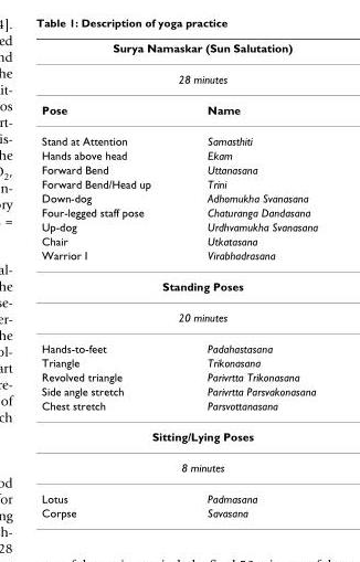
<table><thead><tr><td rowspan="2" colspan="2">Surya Namaskar (Sun Salutation) 28 minutes</td></tr><tr></tr><tr><td>Pose</td><td>Name</td></tr></thead><tbody><tr><td>Stand at Attention</td><td>Samasthiti</td></tr><tr><td>Hands above head</td><td>Ekam</td></tr><tr><td>Forward Bend</td><td>Uttanasana</td></tr><tr><td>Forward Bend/Head up</td><td>Trini</td></tr><tr><td>Down-dog</td><td>Adhomukha Svanasana</td></tr><tr><td>Four-legged staff pose</td><td>Chaturanga Dandasana</td></tr><tr><td>Up-dog</td><td>Urdhvamukha Svanasana</td></tr><tr><td>Chair</td><td>Utkatasana</td></tr><tr><td>Warrior I</td><td>Virabhadrasana</td></tr><tr><td colspan="2">Standing Poses</td></tr><tr><td colspan="2">20 minutes</td></tr><tr><td>Hands-to-feet</td><td>Padahastasana</td></tr><tr><td>Triangle</td><td>Trikonasana</td></tr><tr><td>Revolved triangle</td><td>Parivrtta Trikonasana</td></tr><tr><td>Side angle stretch</td><td>Parivrtta Parsvakonasana</td></tr><tr><td>Chest stretch</td><td>Parsvottanasana</td></tr><tr><td colspan="2">Sitting/Lying Poses</td></tr><tr><td colspan="2">8 minutes</td></tr><tr><td>Lotus</td><td>Padmasana</td></tr><tr><td>Corpse</td><td>Savasana</td></tr></tbody></table>